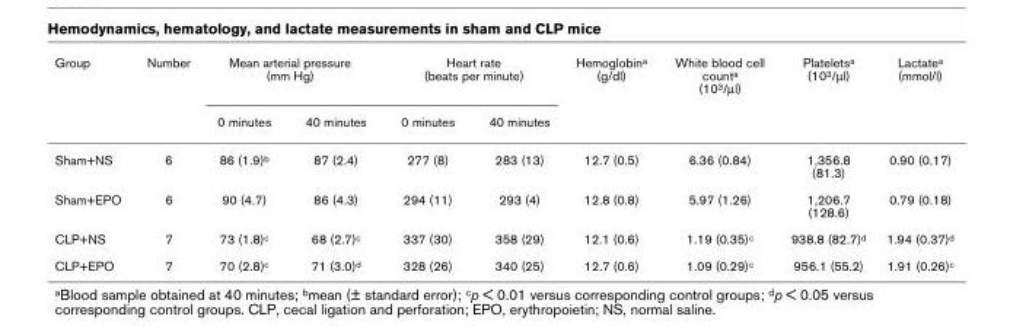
<table><thead><tr><td rowspan="2">Group</td><td rowspan="2">Number</td><td colspan="2">Mean arterial pressure (mm Hg)</td><td colspan="2">Heart rate (beats per minute)</td><td rowspan="2">Hemoglobin<sup>a</sup> (g/dl)</td><td rowspan="2">White blood cell count<sup>a</sup> (10<sup>3</sup>/μl)</td><td rowspan="2">Platelets<sup>a</sup> (10<sup>3</sup>/μl)</td><td rowspan="2">Lactate<sup>a</sup> (mmol/l)</td></tr><tr><td>0 minutes</td><td>40 minutes</td><td>0 minutes</td><td>40 minutes</td></tr></thead><tbody><tr><td>Sham+NS</td><td>6</td><td>86 (1.9)<sup>b</sup></td><td>87 (2.4)</td><td>277 (8)</td><td>283 (13)</td><td>12.7 (0.5)</td><td>6.36 (0.84)</td><td>1,356.8 (81.3)</td><td>0.90 (0.17)</td></tr><tr><td>Sham+EPO</td><td>6</td><td>90 (4.7)</td><td>86 (4.3)</td><td>294 (11)</td><td>293 (4)</td><td>12.8 (0.8)</td><td>5.97 (1.26)</td><td>1,206.7 (128.6)</td><td>0.79 (0.18)</td></tr><tr><td>CLP+NS</td><td>7</td><td>73 (1.8)<sup>c</sup></td><td>68 (2.7)<sup>c</sup></td><td>337 (30)</td><td>358 (29)</td><td>12.1 (0.6)</td><td>1.19 (0.35)<sup>c</sup></td><td>938.8 (82.7)<sup>d</sup></td><td>1.94 (0.37)<sup>d</sup></td></tr><tr><td>CLP+EPO</td><td>7</td><td>70 (2.8)<sup>c</sup></td><td>71 (3.0)<sup>d</sup></td><td>328 (26)</td><td>340 (25)</td><td>12.7 (0.6)</td><td>1.09 (0.29)<sup>c</sup></td><td>956.1 (55.2)</td><td>1.91 (0.26)<sup>c</sup></td></tr></tbody></table>